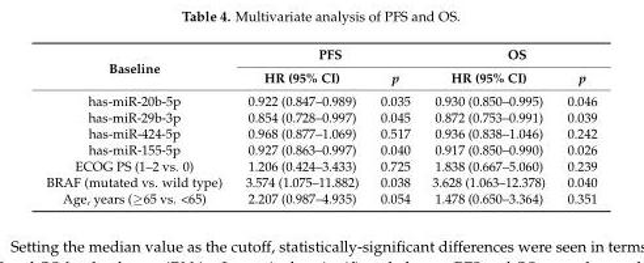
<table><thead><tr><td rowspan="2">Baseline</td><td colspan="2">PFS</td><td colspan="2">OS</td></tr><tr><td>HR (95% CI)</td><td>p</td><td>HR (95% CI)</td><td>p</td></tr></thead><tbody><tr><td>has-miR-20b-5p</td><td>0.922 (0.847–0.989)</td><td>0.035</td><td>0.930 (0.850–0.995)</td><td>0.046</td></tr><tr><td>has-miR-29b-3p</td><td>0.854 (0.728–0.997)</td><td>0.045</td><td>0.872 (0.753–0.991)</td><td>0.039</td></tr><tr><td>has-miR-424-5p</td><td>0.968 (0.877–1.069)</td><td>0.517</td><td>0.936 (0.838–1.046)</td><td>0.242</td></tr><tr><td>has-miR-155-5p</td><td>0.927 (0.863–0.997)</td><td>0.040</td><td>0.917 (0.850–0.990)</td><td>0.026</td></tr><tr><td>ECOG PS (1–2 vs. 0)</td><td>1.206 (0.424–3.433)</td><td>0.725</td><td>1.838 (0.667–5.060)</td><td>0.239</td></tr><tr><td>BRAF (mutated vs. wild type)</td><td>3.574 (1.075–11.882)</td><td>0.038</td><td>3.628 (1.063–12.378)</td><td>0.040</td></tr><tr><td>Age, years (≥65 vs. &lt;65)</td><td>2.207 (0.987–4.935)</td><td>0.054</td><td>1.478 (0.650–3.364)</td><td>0.351</td></tr></tbody></table>